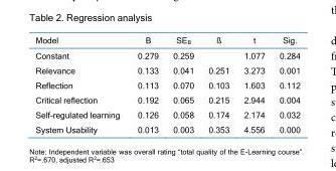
<table><thead><tr><td>Model</td><td>B</td><td>SE<sub>B</sub></td><td>ß</td><td>t</td><td>Sig.</td></tr></thead><tbody><tr><td>Constant</td><td>0.279</td><td>0.259</td><td></td><td>1.077</td><td>0.284</td></tr><tr><td>Relevance</td><td>0.133</td><td>0.041</td><td>0.251</td><td>3.273</td><td>0.001</td></tr><tr><td>Reflection</td><td>0.113</td><td>0.070</td><td>0.103</td><td>1.603</td><td>0.112</td></tr><tr><td>Critical reflection</td><td>0.192</td><td>0.065</td><td>0.215</td><td>2.944</td><td>0.004</td></tr><tr><td>Self-regulated learning</td><td>0.126</td><td>0.058</td><td>0.174</td><td>2.174</td><td>0.032</td></tr><tr><td>System Usability</td><td>0.013</td><td>0.003</td><td>0.353</td><td>4.556</td><td>0.000</td></tr></tbody></table>